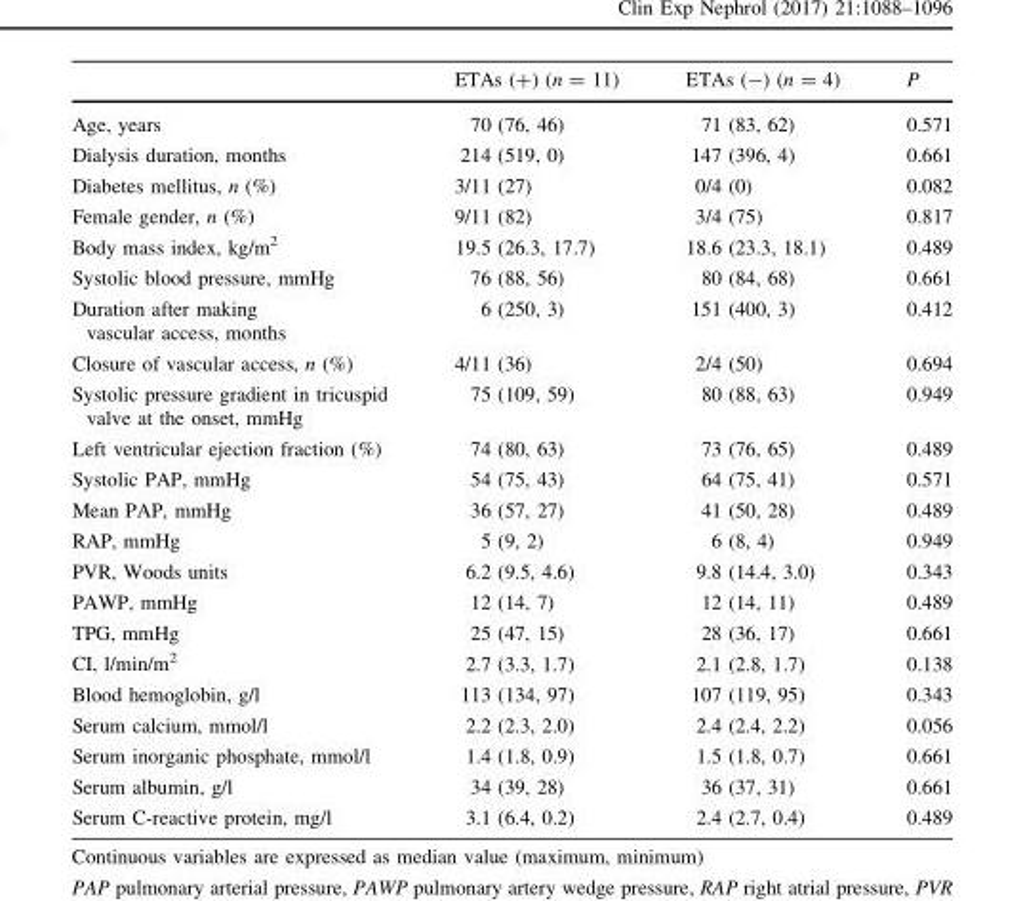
<table><thead><tr><td></td><td>ETAs (+) (n = 11)</td><td>ETAs (-) (n = 4)</td><td>P</td></tr></thead><tbody><tr><td>Age, years</td><td>70 (76, 46)</td><td>71 (83, 62)</td><td>0.571</td></tr><tr><td>Dialysis duration, months</td><td>214 (519, 0)</td><td>147 (396, 4)</td><td>0.661</td></tr><tr><td>Diabetes mellitus, n (%)</td><td>3/11 (27)</td><td>0/4 (0)</td><td>0.082</td></tr><tr><td>Female gender, n (%)</td><td>9/11 (82)</td><td>3/4 (75)</td><td>0.817</td></tr><tr><td>Body mass index, kg/m<sup>2</sup></td><td>19.5 (26.3, 17.7)</td><td>18.6 (23.3, 18.1)</td><td>0.489</td></tr><tr><td>Systolic blood pressure, mmHg</td><td>76 (88, 56)</td><td>80 (84, 68)</td><td>0.661</td></tr><tr><td>Duration after making vascular access, months</td><td>6 (250, 3)</td><td>151 (400, 3)</td><td>0.412</td></tr><tr><td>Closure of vascular access, n (%)</td><td>4/11 (36)</td><td>2/4 (50)</td><td>0.694</td></tr><tr><td>Systolic pressure gradient in tricuspid valve at the onset, mmHg</td><td>75 (109, 59)</td><td>80 (88, 63)</td><td>0.949</td></tr><tr><td>Left ventricular ejection fraction (%)</td><td>74 (80, 63)</td><td>73 (76, 65)</td><td>0.489</td></tr><tr><td>Systolic PAP, mmHg</td><td>54 (75, 43)</td><td>64 (75, 41)</td><td>0.571</td></tr><tr><td>Mean PAP, mmHg</td><td>36 (57, 27)</td><td>41 (50, 28)</td><td>0.489</td></tr><tr><td>RAP, mmHg</td><td>5 (9, 2)</td><td>6 (8, 4)</td><td>0.949</td></tr><tr><td>PVR, Woods units</td><td>6.2 (9.5, 4.6)</td><td>9.8 (14.4, 3.0)</td><td>0.343</td></tr><tr><td>PAWP, mmHg</td><td>12 (14, 7)</td><td>12 (14, 11)</td><td>0.489</td></tr><tr><td>TPG, mmHg</td><td>25 (47, 15)</td><td>28 (36, 17)</td><td>0.661</td></tr><tr><td>CI, l/min/m<sup>2</sup></td><td>2.7 (3.3, 1.7)</td><td>2.1 (2.8, 1.7)</td><td>0.138</td></tr><tr><td>Blood hemoglobin, g/l</td><td>113 (134, 97)</td><td>107 (119, 95)</td><td>0.343</td></tr><tr><td>Serum calcium, mmol/l</td><td>2.2 (2.3, 2.0)</td><td>2.4 (2.4, 2.2)</td><td>0.056</td></tr><tr><td>Serum inorganic phosphate, mmol/l</td><td>1.4 (1.8, 0.9)</td><td>1.5 (1.8, 0.7)</td><td>0.661</td></tr><tr><td>Serum albumin, g/l</td><td>34 (39, 28)</td><td>36 (37, 31)</td><td>0.661</td></tr><tr><td>Serum C-reactive protein, mg/l</td><td>3.1 (6.4, 0.2)</td><td>2.4 (2.7, 0.4)</td><td>0.489</td></tr></tbody></table>